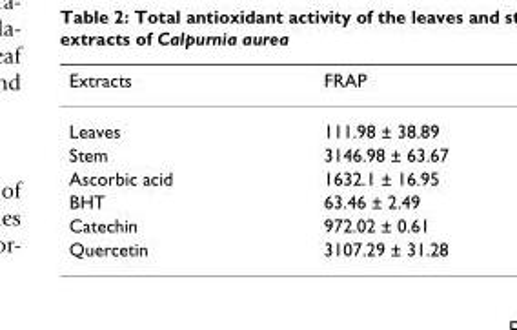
<table><thead><tr><td>Extracts</td><td>FRAP</td></tr></thead><tbody><tr><td>Leaves</td><td>111.98 ± 38.89</td></tr><tr><td>Stem</td><td>3146.98 ± 63.67</td></tr><tr><td>Ascorbic acid</td><td>1632.1 ± 16.95</td></tr><tr><td>BHT</td><td>63.46 ± 2.49</td></tr><tr><td>Catechin</td><td>972.02 ± 0.61</td></tr><tr><td>Quercetin</td><td>3107.29 ± 31.28</td></tr></tbody></table>